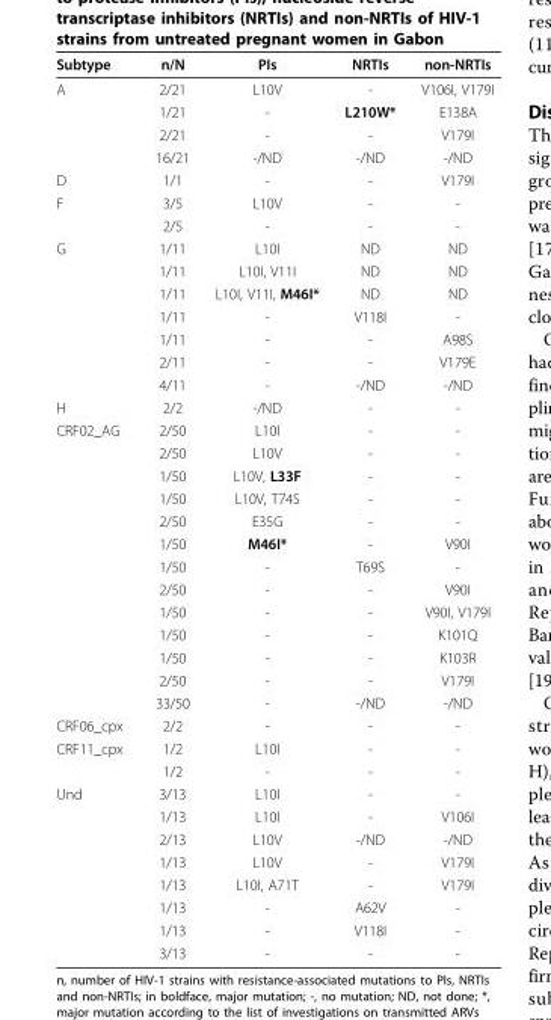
<table><thead><tr><td>Subtype</td><td>n/N</td><td>PIs</td><td>NRTIs</td><td>non-NRTIs</td></tr></thead><tbody><tr><td rowspan="4">A</td><td>2/21</td><td>L10V</td><td>-</td><td>V106I, V179I</td></tr><tr><td>1/21</td><td>-</td><td>L210W*</td><td>E138A</td></tr><tr><td>2/21</td><td>-</td><td>-</td><td>V179I</td></tr><tr><td>16/21</td><td>-/ND</td><td>-/ND</td><td>-/ND</td></tr><tr><td>D</td><td>1/1</td><td>-</td><td>-</td><td>V179I</td></tr><tr><td rowspan="2">F</td><td>3/5</td><td>L10V</td><td>-</td><td>-</td></tr><tr><td>2/5</td><td>-</td><td>-</td><td>-</td></tr><tr><td rowspan="7">G</td><td>1/11</td><td>L10I</td><td>ND</td><td>ND</td></tr><tr><td>1/11</td><td>L10I, V11I</td><td>ND</td><td>ND</td></tr><tr><td>1/11</td><td>L10I, V11I, M46I*</td><td>ND</td><td>ND</td></tr><tr><td>1/11</td><td>-</td><td>V118I</td><td>-</td></tr><tr><td>1/11</td><td>-</td><td>-</td><td>A98S</td></tr><tr><td>2/11</td><td>-</td><td>-</td><td>V179E</td></tr><tr><td>4/11</td><td>-</td><td>-/ND</td><td>-/ND</td></tr><tr><td>H</td><td>2/2</td><td>-/ND</td><td>-</td><td>-</td></tr><tr><td rowspan="13">CRF02_AG</td><td>2/50</td><td>L10I</td><td>-</td><td>-</td></tr><tr><td>2/50</td><td>L10V</td><td>-</td><td>-</td></tr><tr><td>1/50</td><td>L10V, L33F</td><td>-</td><td>-</td></tr><tr><td>1/50</td><td>L10V, T74S</td><td>-</td><td>-</td></tr><tr><td>2/50</td><td>E35G</td><td>-</td><td>-</td></tr><tr><td>1/50</td><td>M46I*</td><td>-</td><td>V90I</td></tr><tr><td>1/50</td><td>-</td><td>T69S</td><td>-</td></tr><tr><td>2/50</td><td>-</td><td>-</td><td>V90I</td></tr><tr><td>1/50</td><td>-</td><td>-</td><td>V90I, V179I</td></tr><tr><td>1/50</td><td>-</td><td>-</td><td>K101Q</td></tr><tr><td>1/50</td><td>-</td><td>-</td><td>K103R</td></tr><tr><td>2/50</td><td>-</td><td>-</td><td>V179I</td></tr><tr><td>33/50</td><td>-</td><td>-/ND</td><td>-/ND</td></tr><tr><td>CRF06_cpx</td><td>2/2</td><td>-</td><td>-</td><td>-</td></tr><tr><td rowspan="2">CRF11_cpx</td><td>1/2</td><td>L10I</td><td>-</td><td>-</td></tr><tr><td>1/2</td><td>-</td><td>-</td><td>-</td></tr><tr><td rowspan="8">Und</td><td>3/13</td><td>L10I</td><td>-</td><td>-</td></tr><tr><td>1/13</td><td>L10I</td><td>-</td><td>V106I</td></tr><tr><td>2/13</td><td>L10V</td><td>-/ND</td><td>-/ND</td></tr><tr><td>1/13</td><td>L10V</td><td>-</td><td>V179I</td></tr><tr><td>1/13</td><td>L10I, A71T</td><td>-</td><td>V179I</td></tr><tr><td>1/13</td><td>-</td><td>A62V</td><td>-</td></tr><tr><td>1/13</td><td>-</td><td>V118I</td><td>-</td></tr><tr><td>3/13</td><td>-</td><td>-</td><td>-</td></tr></tbody></table>